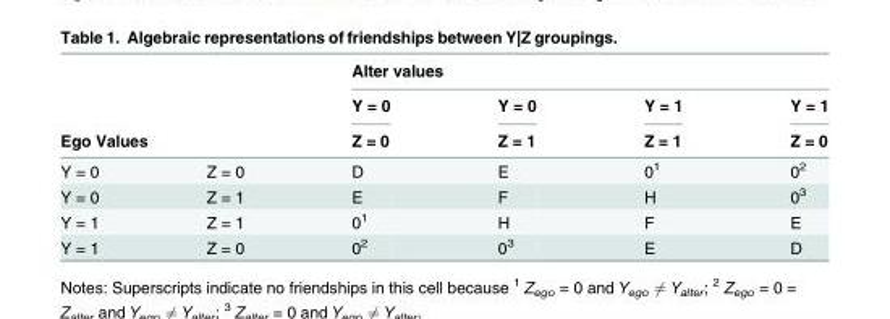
<table><thead><tr><td rowspan="2"></td><td rowspan="2"></td><td colspan="4">Alter values</td></tr><tr><td rowspan="2">Y = 0 Z = 0</td><td rowspan="2">Y = 0 Z = 1</td><td rowspan="2">Y = 1 Z = 1</td><td rowspan="2">Y = 1 Z = 0</td></tr><tr><td colspan="2">Ego Values</td></tr></thead><tbody><tr><td>Y = 0</td><td>Z = 0</td><td>D</td><td>E</td><td>0<sup>1</sup></td><td>0<sup>2</sup></td></tr><tr><td>Y = 0</td><td>Z = 1</td><td>E</td><td>F</td><td>H</td><td>0<sup>3</sup></td></tr><tr><td>Y = 1</td><td>Z = 1</td><td>0<sup>1</sup></td><td>H</td><td>F</td><td>E</td></tr><tr><td>Y = 1</td><td>Z = 0</td><td>0<sup>2</sup></td><td>0<sup>3</sup></td><td>E</td><td>D</td></tr></tbody></table>